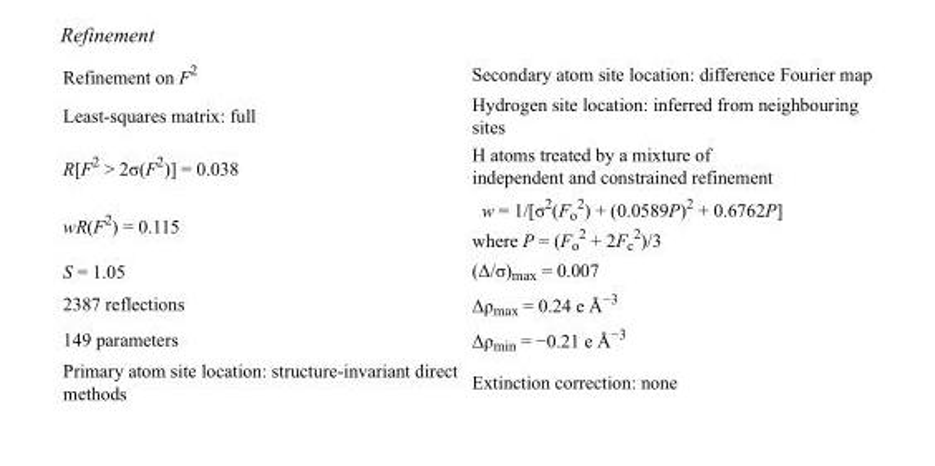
<table><tbody><tr><td>Refinement on F<sup>2</sup></td><td>Secondary atom site location: difference Fourier map</td></tr><tr><td>Least-squares matrix: full</td><td>Hydrogen site location: inferred from neighbouring sites</td></tr><tr><td>R[F<sup>2</sup> &gt; 2σ(F<sup>2</sup>)] = 0.038</td><td>H atoms treated by a mixture of independent and constrained refinement</td></tr><tr><td>wR(F<sup>2</sup>) = 0.115</td><td>w = 1/[σ<sup>2</sup>(F<sub>o</sub> <sup>2</sup>) + (0.0589P)<sup>2</sup> + 0.6762P] where P = (F<sub>o</sub> <sup>2</sup> + 2F<sub>c</sub> <sup>2</sup>)/3</td></tr><tr><td>S = 1.05</td><td>(Δ/σ)<sub>max</sub> = 0.007</td></tr><tr><td>2387 reflections</td><td>Δρ<sub>max</sub> = 0.24 e Å<sup>−3</sup></td></tr><tr><td>149 parameters</td><td>Δρ<sub>min</sub> = −0.21 e Å<sup>−3</sup></td></tr><tr><td>Primary atom site location: structure-invariant direct methods</td><td>Extinction correction: none</td></tr></tbody></table>